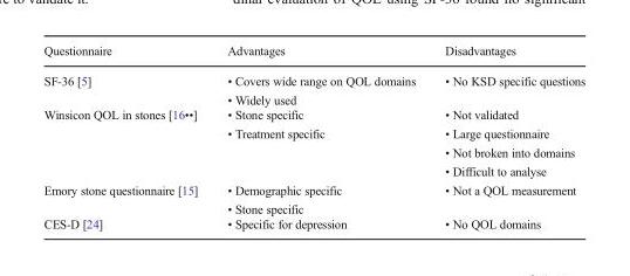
<table><thead><tr><td>Questionnaire</td><td>Advantages</td><td>Disadvantages</td></tr></thead><tbody><tr><td>SF-36 [5]</td><td>• Covers wide range on QOL domains • Widely used</td><td>• No KSD specific questions</td></tr><tr><td>Winsicon QOL in stones [16••]</td><td>• Stone specific • Treatment specific</td><td>• Not validated • Large questionnaire • Not broken into domains • Difficult to analyse</td></tr><tr><td>Emory stone questionnaire [15]</td><td>• Demographic specific • Stone specific</td><td>• Not a QOL measurement</td></tr><tr><td>CES-D [24]</td><td>• Specific for depression</td><td>• No QOL domains</td></tr></tbody></table>